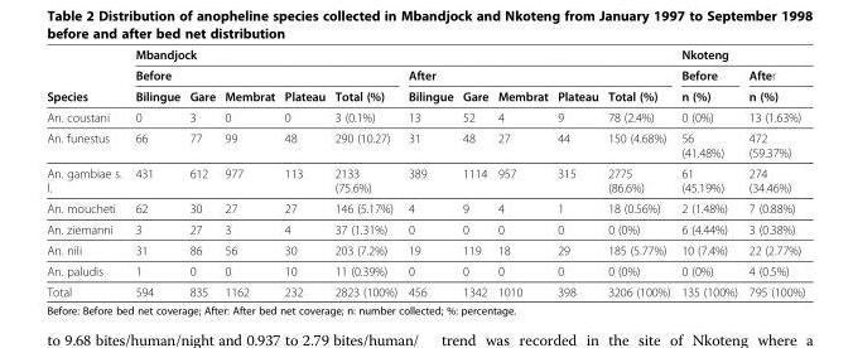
<table><thead><tr><td rowspan="3">Species</td><td colspan="2">Mbandjock</td><td rowspan="3">Membrat</td><td rowspan="3">Plateau</td><td rowspan="3">Total (%)</td><td rowspan="3">After Bilingue</td><td rowspan="3">Gare</td><td rowspan="3">Membrat</td><td rowspan="3">Plateau</td><td rowspan="3">Total (%)</td><td rowspan="3">Nkoteng Before n (%)</td><td rowspan="3">After n (%)</td></tr><tr><td rowspan="2">Before Bilingue</td><td rowspan="2">Gare</td></tr><tr></tr></thead><tbody><tr><td>An. coustani</td><td>0</td><td>3</td><td>0</td><td>0</td><td>3 (0.1%)</td><td>13</td><td>52</td><td>4</td><td>9</td><td>78 (2.4%)</td><td>0 (0%)</td><td>13 (1.63%)</td></tr><tr><td>An. funestus</td><td>66</td><td>77</td><td>99</td><td>48</td><td>290 (10.27)</td><td>31</td><td>48</td><td>27</td><td>44</td><td>150 (4.68%)</td><td>56 (41.48%)</td><td>472 (59.37%)</td></tr><tr><td>An. gambiae s. l.</td><td>431</td><td>612</td><td>977</td><td>113</td><td>2133 (75.6%)</td><td>389</td><td>1114</td><td>957</td><td>315</td><td>2775 (86.6%)</td><td>61 (45.19%)</td><td>274 (34.46%)</td></tr><tr><td>An. moucheti</td><td>62</td><td>30</td><td>27</td><td>27</td><td>146 (5.17%)</td><td>4</td><td>9</td><td>4</td><td>1</td><td>18 (0.56%)</td><td>2 (1.48%)</td><td>7 (0.88%)</td></tr><tr><td>An. ziemanni</td><td>3</td><td>27</td><td>3</td><td>4</td><td>37 (1.31%)</td><td>0</td><td>0</td><td>0</td><td>0</td><td>0 (0%)</td><td>6 (4.44%)</td><td>3 (0.38%)</td></tr><tr><td>An. nili</td><td>31</td><td>86</td><td>56</td><td>30</td><td>203 (7.2%)</td><td>19</td><td>119</td><td>18</td><td>29</td><td>185 (5.77%)</td><td>10 (7.4%)</td><td>22 (2.77%)</td></tr><tr><td>An. paludis</td><td>1</td><td>0</td><td>0</td><td>10</td><td>11 (0.39%)</td><td>0</td><td>0</td><td>0</td><td>0</td><td>0 (0%)</td><td>0 (0%)</td><td>4 (0.5%)</td></tr><tr><td>Total</td><td>594</td><td>835</td><td>1162</td><td>232</td><td>2823 (100%)</td><td>456</td><td>1342</td><td>1010</td><td>398</td><td>3206 (100%)</td><td>135 (100%)</td><td>795 (100%)</td></tr></tbody></table>